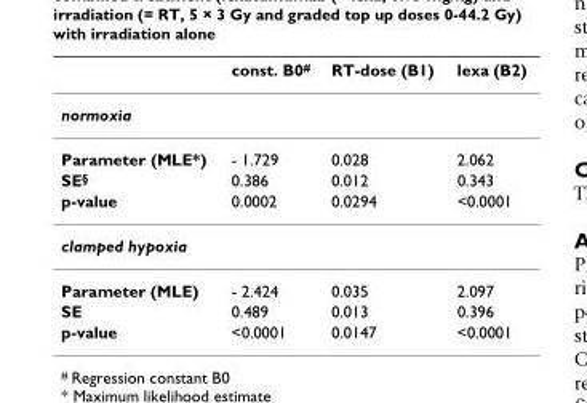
<table><thead><tr><td></td><td>const. B0<sup>#</sup></td><td>RT-dose (B1)</td><td>lexa (B2)</td></tr></thead><tbody><tr><td colspan="4">normoxia</td></tr><tr><td>Parameter (MLE*)</td><td>- 1.729</td><td>0.028</td><td>2.062</td></tr><tr><td>SE<sup>§</sup></td><td>0.386</td><td>0.012</td><td>0.343</td></tr><tr><td>p-value</td><td>0.0002</td><td>0.0294</td><td>&lt;0.0001</td></tr><tr><td colspan="4">clamped hypoxia</td></tr><tr><td>Parameter (MLE)</td><td>- 2.424</td><td>0.035</td><td>2.097</td></tr><tr><td>SE</td><td>0.489</td><td>0.013</td><td>0.396</td></tr><tr><td>p-value</td><td>&lt;0.0001</td><td>0.0147</td><td>&lt;0.0001</td></tr></tbody></table>